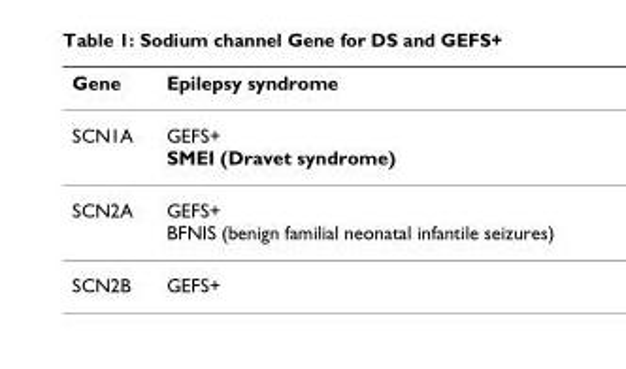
<table><thead><tr><td>Gene</td><td>Epilepsy syndrome</td></tr></thead><tbody><tr><td>SCN1A</td><td>GEFS+ SMEI (Dravet syndrome)</td></tr><tr><td>SCN2A</td><td>GEFS+ BFNIS (benign familial neonatal infantile seizures)</td></tr><tr><td>SCN2B</td><td>GEFS+</td></tr></tbody></table>